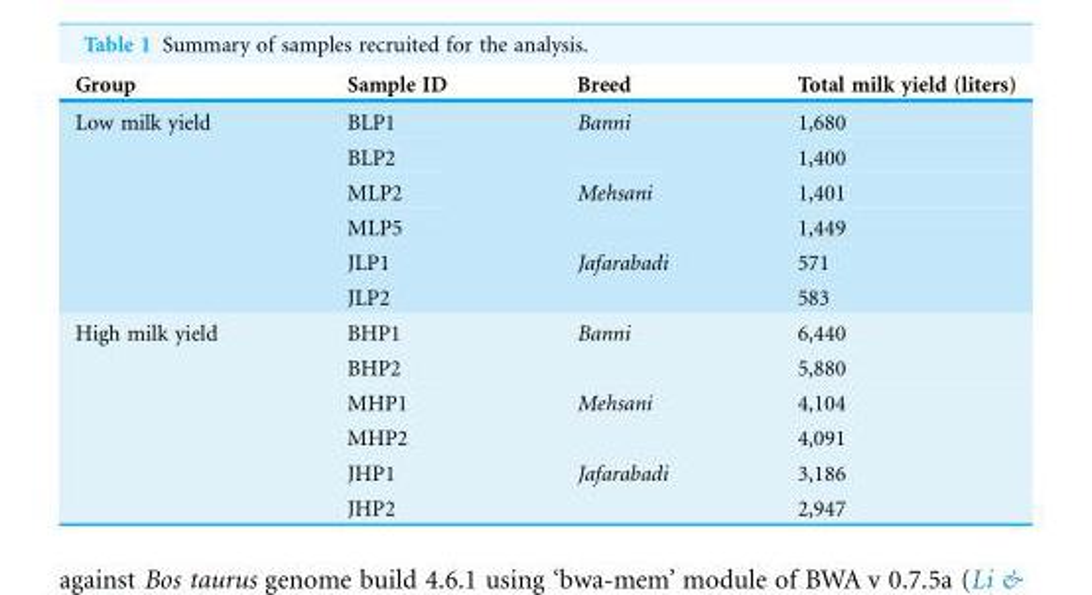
<table><thead><tr><td>Group</td><td>Sample ID</td><td>Breed</td><td>Total milk yield (liters)</td></tr></thead><tbody><tr><td rowspan="6">Low milk yield</td><td>BLP1</td><td rowspan="2">Banni</td><td>1,680</td></tr><tr><td>BLP2</td><td>1,400</td></tr><tr><td>MLP2</td><td rowspan="2">Mehsani</td><td>1,401</td></tr><tr><td>MLP5</td><td>1,449</td></tr><tr><td>JLP1</td><td rowspan="2">Jafarabadi</td><td>571</td></tr><tr><td>JLP2</td><td>583</td></tr><tr><td rowspan="6">High milk yield</td><td>BHP1</td><td rowspan="2">Banni</td><td>6,440</td></tr><tr><td>BHP2</td><td>5,880</td></tr><tr><td>MHP1</td><td rowspan="2">Mehsani</td><td>4,104</td></tr><tr><td>MHP2</td><td>4,091</td></tr><tr><td>JHP1</td><td rowspan="2">Jafarabadi</td><td>3,186</td></tr><tr><td>JHP2</td><td>2,947</td></tr></tbody></table>